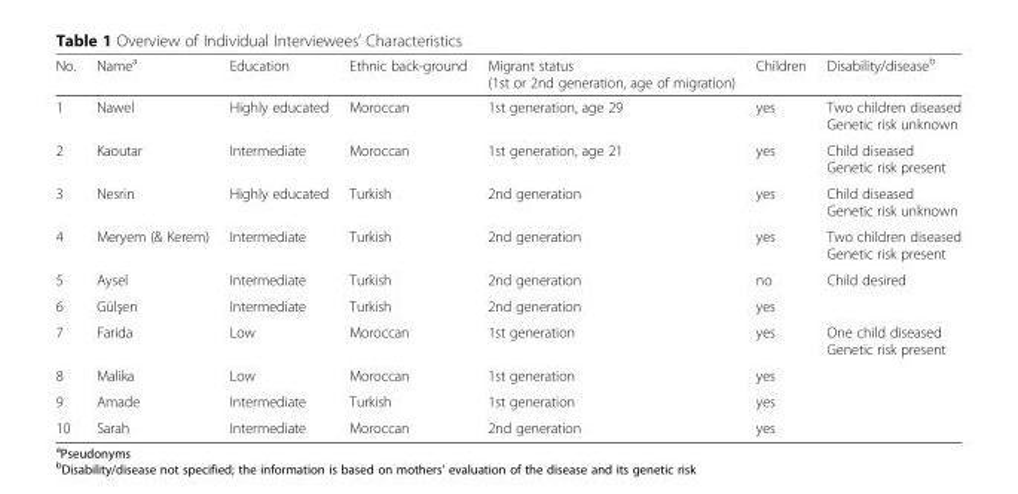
<table><thead><tr><td>No.</td><td>Name<sup>a</sup></td><td>Education</td><td>Ethnic back-ground</td><td>Migrant status (1st or 2nd generation, age of migration)</td><td>Children</td><td>Disability/disease<sup>b</sup></td></tr></thead><tbody><tr><td>1</td><td>Nawel</td><td>Highly educated</td><td>Moroccan</td><td>1st generation, age 29</td><td>yes</td><td>Two children diseased Genetic risk unknown</td></tr><tr><td>2</td><td>Kaoutar</td><td>Intermediate</td><td>Moroccan</td><td>1st generation, age 21</td><td>yes</td><td>Child diseased Genetic risk present</td></tr><tr><td>3</td><td>Nesrin</td><td>Highly educated</td><td>Turkish</td><td>2nd generation</td><td>yes</td><td>Child diseased Genetic risk unknown</td></tr><tr><td>4</td><td>Meryem (&amp; Kerem)</td><td>Intermediate</td><td>Turkish</td><td>2nd generation</td><td>yes</td><td>Two children diseased Genetic risk present</td></tr><tr><td>5</td><td>Aysel</td><td>Intermediate</td><td>Turkish</td><td>2nd generation</td><td>no</td><td>Child desired</td></tr><tr><td>6</td><td>Gülşen</td><td>Intermediate</td><td>Turkish</td><td>2nd generation</td><td>yes</td><td></td></tr><tr><td>7</td><td>Farida</td><td>Low</td><td>Moroccan</td><td>1st generation</td><td>yes</td><td>One child diseased Genetic risk present</td></tr><tr><td>8</td><td>Malika</td><td>Low</td><td>Moroccan</td><td>1st generation</td><td>yes</td><td></td></tr><tr><td>9</td><td>Amade</td><td>Intermediate</td><td>Turkish</td><td>1st generation</td><td>yes</td><td></td></tr><tr><td>10</td><td>Sarah</td><td>Intermediate</td><td>Moroccan</td><td>2nd generation</td><td>yes</td><td></td></tr></tbody></table>